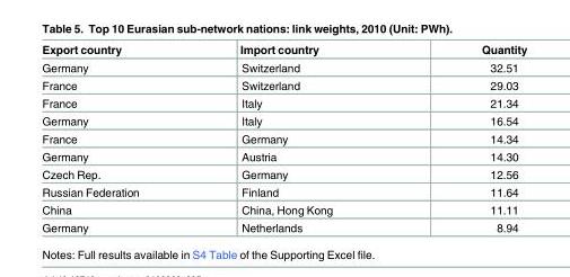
<table><thead><tr><td>Export country</td><td>Import country</td><td>Quantity</td></tr></thead><tbody><tr><td>Germany</td><td>Switzerland</td><td>32.51</td></tr><tr><td>France</td><td>Switzerland</td><td>29.03</td></tr><tr><td>France</td><td>Italy</td><td>21.34</td></tr><tr><td>Germany</td><td>Italy</td><td>16.54</td></tr><tr><td>France</td><td>Germany</td><td>14.34</td></tr><tr><td>Germany</td><td>Austria</td><td>14.30</td></tr><tr><td>Czech Rep.</td><td>Germany</td><td>12.56</td></tr><tr><td>Russian Federation</td><td>Finland</td><td>11.64</td></tr><tr><td>China</td><td>China, Hong Kong</td><td>11.11</td></tr><tr><td>Germany</td><td>Netherlands</td><td>8.94</td></tr></tbody></table>